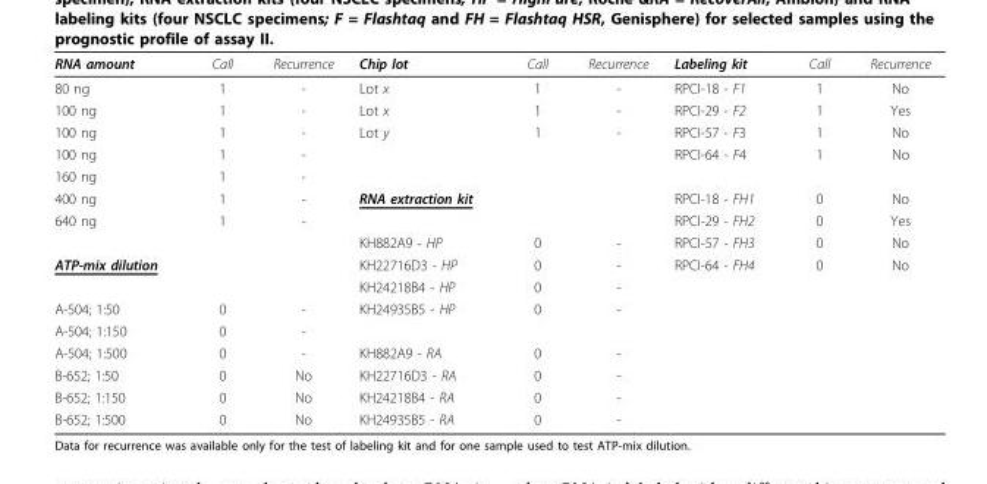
<table><thead><tr><td>RNA amount</td><td>Call</td><td>Recurrence</td><td>Chip lot</td><td>Call</td><td>Recurrence</td><td>Labeling kit</td><td>Call</td><td>Recurrence</td></tr></thead><tbody><tr><td>80 ng</td><td>1</td><td>-</td><td>Lot x</td><td>1</td><td>-</td><td>RPCI-18 - F1</td><td>1</td><td>No</td></tr><tr><td>100 ng</td><td>1</td><td>-</td><td>Lot x</td><td>1</td><td>-</td><td>RPCI-29 - F2</td><td>1</td><td>Yes</td></tr><tr><td>100 ng</td><td>1</td><td>-</td><td>Lot y</td><td>1</td><td>-</td><td>RPCI-57 - F3</td><td>1</td><td>No</td></tr><tr><td>100 ng</td><td>1</td><td>-</td><td></td><td></td><td></td><td>RPCI-64 - F4</td><td>1</td><td>No</td></tr><tr><td>160 ng</td><td>1</td><td>-</td><td></td><td></td><td></td><td></td><td></td><td></td></tr><tr><td>400 ng</td><td>1</td><td>-</td><td>RNA extraction kit</td><td></td><td></td><td>RPCI-18 - FH1</td><td>0</td><td>No</td></tr><tr><td rowspan="2">640 ng</td><td>1</td><td>-</td><td></td><td></td><td></td><td>RPCI-29 - FH2</td><td>0</td><td>Yes</td></tr><tr><td></td><td></td><td>KH882A9 - HP</td><td>0</td><td>-</td><td>RPCI-57 - FH3</td><td>0</td><td>No</td></tr><tr><td rowspan="2">ATP-mix dilution</td><td></td><td></td><td>KH22716D3 - HP</td><td>0</td><td>-</td><td>RPCI-64 - FH4</td><td>0</td><td>No</td></tr><tr><td></td><td></td><td>KH24218B4 - HP</td><td>0</td><td>-</td><td></td><td></td><td></td></tr><tr><td>A-504; 1:50</td><td>0</td><td>-</td><td>KH24935B5 - HP</td><td>0</td><td>-</td><td></td><td></td><td></td></tr><tr><td>A-504; 1:150</td><td>0</td><td>-</td><td></td><td></td><td></td><td></td><td></td><td></td></tr><tr><td>A-504; 1:500</td><td>0</td><td>-</td><td>KH882A9 - RA</td><td>0</td><td>-</td><td></td><td></td><td></td></tr><tr><td>B-652; 1:50</td><td>0</td><td>No</td><td>KH22716D3 - RA</td><td>0</td><td>-</td><td></td><td></td><td></td></tr><tr><td>B-652; 1:150</td><td>0</td><td>No</td><td>KH24218B4 - RA</td><td>0</td><td>-</td><td></td><td></td><td></td></tr><tr><td>B-652; 1:500</td><td>0</td><td>No</td><td>KH24935B5 - RA</td><td>0</td><td>-</td><td></td><td></td><td></td></tr></tbody></table>